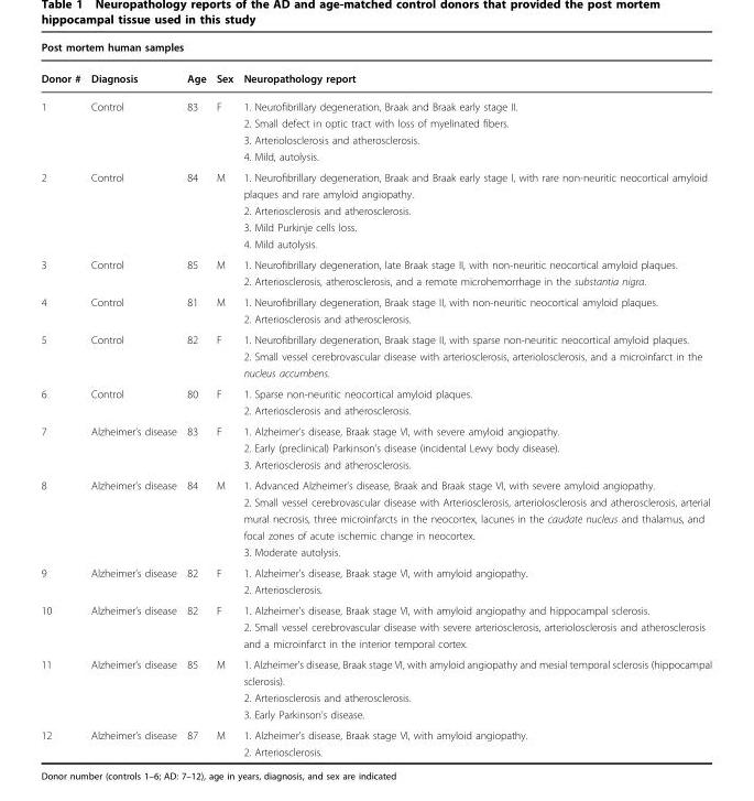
<table><thead><tr><td colspan="5">Post mortem human samples</td></tr><tr><td>Donor #</td><td>Diagnosis</td><td>Age</td><td>Sex</td><td>Neuropathology report</td></tr></thead><tbody><tr><td>1</td><td>Control</td><td>83</td><td>F</td><td>1. Neurofibrillary degeneration, Braak and Braak early stage II. 2. Small defect in optic tract with loss of myelinated fibers. 3. Arteriolosclerosis and atherosclerosis. 4. Mild, autolysis.</td></tr><tr><td>2</td><td>Control</td><td>84</td><td>M</td><td>1. Neurofibrillary degeneration, Braak and Braak early stage I, with rare non-neuritic neocortical amyloid plaques and rare amyloid angiopathy. 2. Arteriosclerosis and atherosclerosis. 3. Mild Purkinje cells loss. 4. Mild autolysis.</td></tr><tr><td>3</td><td>Control</td><td>85</td><td>M</td><td>1. Neurofibrillary degeneration, late Braak stage II, with non-neuritic neocortical amyloid plaques. 2. Arteriosclerosis, atherosclerosis, and a remote microhemorrhage in the substantia nigra.</td></tr><tr><td>4</td><td>Control</td><td>81</td><td>M</td><td>1. Neurofibrillary degeneration, Braak stage II, with non-neuritic neocortical amyloid plaques. 2. Arteriosclerosis and atherosclerosis.</td></tr><tr><td>5</td><td>Control</td><td>82</td><td>F</td><td>1. Neurofibrillary degeneration, Braak stage II, with sparse non-neuritic neocortical amyloid plaques. 2. Small vessel cerebrovascular disease with arteriosclerosis, arteriolosclerosis, and a microinfarct in the nucleus accumbens.</td></tr><tr><td>6</td><td>Control</td><td>80</td><td>F</td><td>1. Sparse non-neuritic neocortical amyloid plaques. 2. Arteriosclerosis and atherosclerosis.</td></tr><tr><td>7</td><td>Alzheimer’s disease</td><td>83</td><td>F</td><td>1. Alzheimer’s disease, Braak stage VI, with severe amyloid angiopathy. 2. Early (preclinical) Parkinson’s disease (incidental Lewy body disease). 3. Arteriosclerosis and atherosclerosis.</td></tr><tr><td>8</td><td>Alzheimer’s disease</td><td>84</td><td>M</td><td>1. Advanced Alzheimer’s disease, Braak and Braak stage VI, with severe amyloid angiopathy. 2. Small vessel cerebrovascular disease with Arteriosclerosis, arteriolosclerosis and atherosclerosis, arterial mural necrosis, three microinfarcts in the neocortex, lacunes in the caudate nucleus and thalamus, and focal zones of acute ischemic change in neocortex. 3. Moderate autolysis.</td></tr><tr><td>9</td><td>Alzheimer’s disease</td><td>82</td><td>F</td><td>1. Alzheimer’s disease, Braak stage VI, with amyloid angiopathy. 2. Arteriosclerosis.</td></tr><tr><td>10</td><td>Alzheimer’s disease</td><td>82</td><td>F</td><td>1. Alzheimer’s disease, Braak stage VI, with amyloid angiopathy and hippocampal sclerosis. 2. Small vessel cerebrovascular disease with severe arteriosclerosis, arteriolosclerosis and atherosclerosis and a microinfarct in the interior temporal cortex.</td></tr><tr><td>11</td><td>Alzheimer’s disease</td><td>85</td><td>M</td><td>1. Alzheimer’s disease, Braak stage VI, with amyloid angiopathy and mesial temporal sclerosis (hippocampal sclerosis). 2. Arteriosclerosis and atherosclerosis. 3. Early Parkinson’s disease.</td></tr><tr><td>12</td><td>Alzheimer’s disease</td><td>87</td><td>M</td><td>1. Alzheimer’s disease, Braak stage VI, with amyloid angiopathy. 2. Arteriosclerosis.</td></tr></tbody></table>